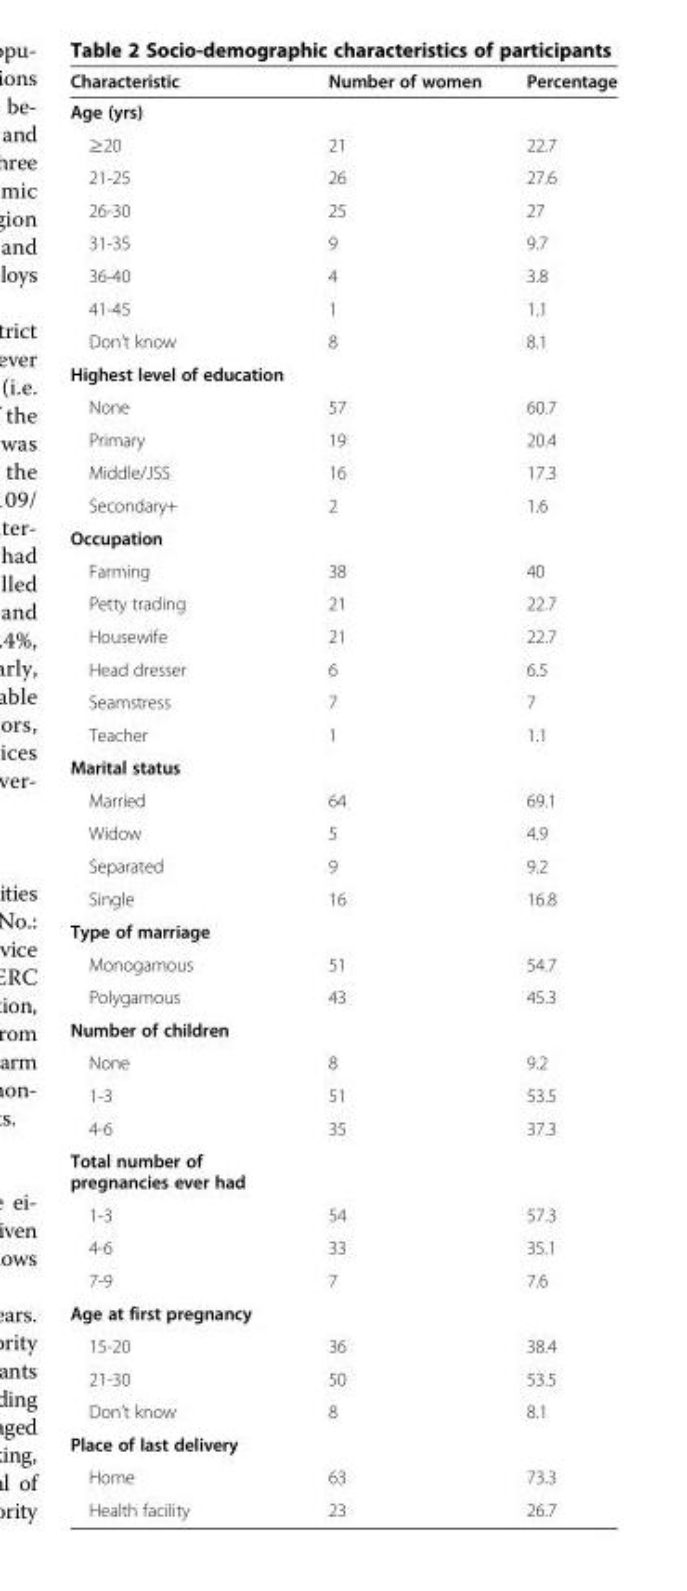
<table><thead><tr><td>Characteristic</td><td>Number of women</td><td>Percentage</td></tr></thead><tbody><tr><td colspan="3">Age (yrs)</td></tr><tr><td>≥20</td><td>21</td><td>22.7</td></tr><tr><td>21-25</td><td>26</td><td>27.6</td></tr><tr><td>26-30</td><td>25</td><td>27</td></tr><tr><td>31-35</td><td>9</td><td>9.7</td></tr><tr><td>36-40</td><td>4</td><td>3.8</td></tr><tr><td>41-45</td><td>1</td><td>1.1</td></tr><tr><td>Don’t know</td><td>8</td><td>8.1</td></tr><tr><td colspan="3">Highest level of education</td></tr><tr><td>None</td><td>57</td><td>60.7</td></tr><tr><td>Primary</td><td>19</td><td>20.4</td></tr><tr><td>Middle/JSS</td><td>16</td><td>17.3</td></tr><tr><td>Secondary+</td><td>2</td><td>1.6</td></tr><tr><td colspan="3">Occupation</td></tr><tr><td>Farming</td><td>38</td><td>40</td></tr><tr><td>Petty trading</td><td>21</td><td>22.7</td></tr><tr><td>Housewife</td><td>21</td><td>22.7</td></tr><tr><td>Head dresser</td><td>6</td><td>6.5</td></tr><tr><td>Seamstress</td><td>7</td><td>7</td></tr><tr><td>Teacher</td><td>1</td><td>1.1</td></tr><tr><td colspan="3">Marital status</td></tr><tr><td>Married</td><td>64</td><td>69.1</td></tr><tr><td>Widow</td><td>5</td><td>4.9</td></tr><tr><td>Separated</td><td>9</td><td>9.2</td></tr><tr><td>Single</td><td>16</td><td>16.8</td></tr><tr><td colspan="3">Type of marriage</td></tr><tr><td>Monogamous</td><td>51</td><td>54.7</td></tr><tr><td>Polygamous</td><td>43</td><td>45.3</td></tr><tr><td colspan="3">Number of children</td></tr><tr><td>None</td><td>8</td><td>9.2</td></tr><tr><td>1-3</td><td>51</td><td>53.5</td></tr><tr><td>4-6</td><td>35</td><td>37.3</td></tr><tr><td colspan="3">Total number of pregnancies ever had</td></tr><tr><td>1-3</td><td>54</td><td>57.3</td></tr><tr><td>4-6</td><td>33</td><td>35.1</td></tr><tr><td>7-9</td><td>7</td><td>7.6</td></tr><tr><td colspan="3">Age at first pregnancy</td></tr><tr><td>15-20</td><td>36</td><td>38.4</td></tr><tr><td>21-30</td><td>50</td><td>53.5</td></tr><tr><td>Don’t know</td><td>8</td><td>8.1</td></tr><tr><td colspan="3">Place of last delivery</td></tr><tr><td>Home</td><td>63</td><td>73.3</td></tr><tr><td>Health facility</td><td>23</td><td>26.7</td></tr></tbody></table>